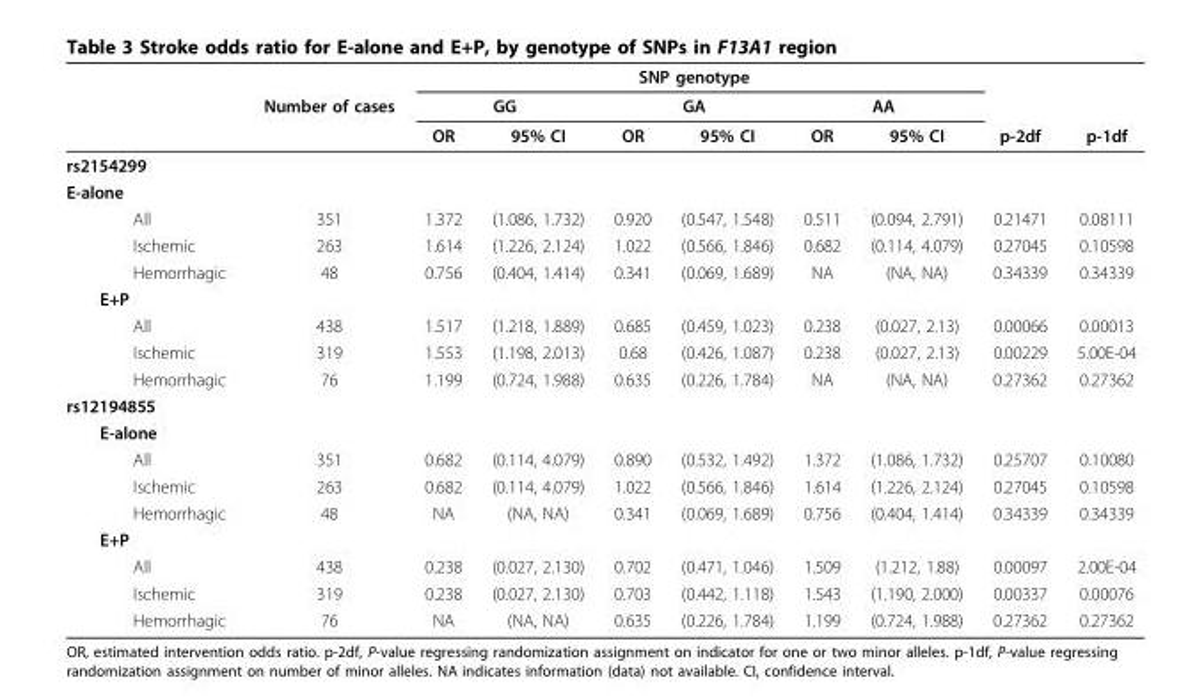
<table><thead><tr><td rowspan="3"></td><td rowspan="3">Number of cases</td><td colspan="6">SNP genotype</td><td rowspan="3">p-2df</td><td rowspan="3">p-1df</td></tr><tr><td colspan="2">GG</td><td colspan="2">GA</td><td colspan="2">AA</td></tr><tr><td>OR</td><td>95% CI</td><td>OR</td><td>95% CI</td><td>OR</td><td>95% CI</td></tr></thead><tbody><tr><td colspan="10">rs2154299</td></tr><tr><td colspan="10">E-alone</td></tr><tr><td>All</td><td>351</td><td>1.372</td><td>(1.086, 1.732)</td><td>0.920</td><td>(0.547, 1.548)</td><td>0.511</td><td>(0.094, 2.791)</td><td>0.21471</td><td>0.08111</td></tr><tr><td>Ischemic</td><td>263</td><td>1.614</td><td>(1.226, 2.124)</td><td>1.022</td><td>(0.566, 1.846)</td><td>0.682</td><td>(0.114, 4.079)</td><td>0.27045</td><td>0.10598</td></tr><tr><td>Hemorrhagic</td><td>48</td><td>0.756</td><td>(0.404, 1.414)</td><td>0.341</td><td>(0.069, 1.689)</td><td>NA</td><td>(NA, NA)</td><td>0.34339</td><td>0.34339</td></tr><tr><td colspan="10">E+P</td></tr><tr><td>All</td><td>438</td><td>1.517</td><td>(1.218, 1.889)</td><td>0.685</td><td>(0.459, 1.023)</td><td>0.238</td><td>(0.027, 2.13)</td><td>0.00066</td><td>0.00013</td></tr><tr><td>Ischemic</td><td>319</td><td>1.553</td><td>(1.198, 2.013)</td><td>0.68</td><td>(0.426, 1.087)</td><td>0.238</td><td>(0.027, 2.13)</td><td>0.00229</td><td>5.00E-04</td></tr><tr><td>Hemorrhagic</td><td>76</td><td>1.199</td><td>(0.724, 1.988)</td><td>0.635</td><td>(0.226, 1.784)</td><td>NA</td><td>(NA, NA)</td><td>0.27362</td><td>0.27362</td></tr><tr><td colspan="10">rs12194855</td></tr><tr><td colspan="10">E-alone</td></tr><tr><td>All</td><td>351</td><td>0.682</td><td>(0.114, 4.079)</td><td>0.890</td><td>(0.532, 1.492)</td><td>1.372</td><td>(1.086, 1.732)</td><td>0.25707</td><td>0.10080</td></tr><tr><td>Ischemic</td><td>263</td><td>0.682</td><td>(0.114, 4.079)</td><td>1.022</td><td>(0.566, 1.846)</td><td>1.614</td><td>(1.226, 2.124)</td><td>0.27045</td><td>0.10598</td></tr><tr><td>Hemorrhagic</td><td>48</td><td>NA</td><td>(NA, NA)</td><td>0.341</td><td>(0.069, 1.689)</td><td>0.756</td><td>(0.404, 1.414)</td><td>0.34339</td><td>0.34339</td></tr><tr><td colspan="10">E+P</td></tr><tr><td>All</td><td>438</td><td>0.238</td><td>(0.027, 2.130)</td><td>0.702</td><td>(0.471, 1.046)</td><td>1.509</td><td>(1.212, 1.88)</td><td>0.00097</td><td>2.00E-04</td></tr><tr><td>Ischemic</td><td>319</td><td>0.238</td><td>(0.027, 2.130)</td><td>0.703</td><td>(0.442, 1.118)</td><td>1.543</td><td>(1.190, 2.000)</td><td>0.00337</td><td>0.00076</td></tr><tr><td>Hemorrhagic</td><td>76</td><td>NA</td><td>(NA, NA)</td><td>0.635</td><td>(0.226, 1.784)</td><td>1.199</td><td>(0.724, 1.988)</td><td>0.27362</td><td>0.27362</td></tr></tbody></table>